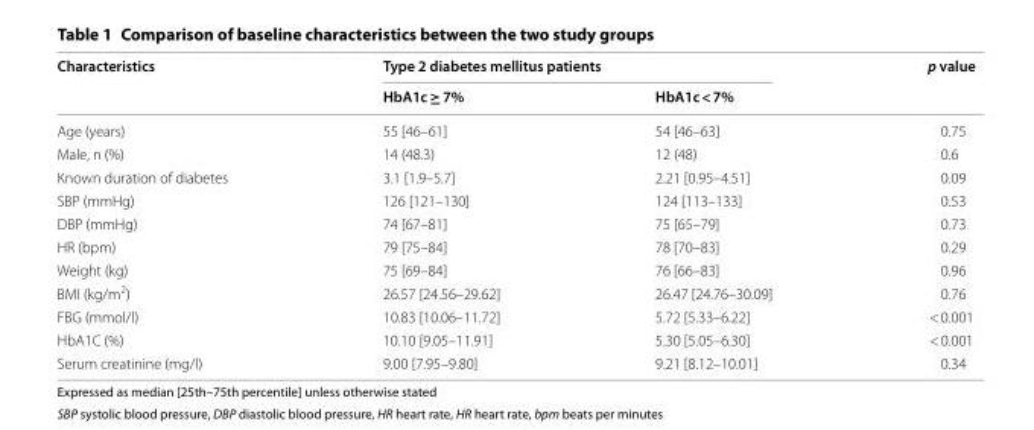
<table><thead><tr><td rowspan="2">Characteristics</td><td colspan="2">Type 2 diabetes mellitus patients</td><td rowspan="2">p value</td></tr><tr><td>HbA1c ≥ 7%</td><td>HbA1c &lt; 7%</td></tr></thead><tbody><tr><td>Age (years)</td><td>55 [46–61]</td><td>54 [46–63]</td><td>0.75</td></tr><tr><td>Male, n (%)</td><td>14 (48.3)</td><td>12 (48)</td><td>0.6</td></tr><tr><td>Known duration of diabetes</td><td>3.1 [1.9–5.7]</td><td>2.21 [0.95–4.51]</td><td>0.09</td></tr><tr><td>SBP (mmHg)</td><td>126 [121–130]</td><td>124 [113–133]</td><td>0.53</td></tr><tr><td>DBP (mmHg)</td><td>74 [67–81]</td><td>75 [65–79]</td><td>0.73</td></tr><tr><td>HR (bpm)</td><td>79 [75–84]</td><td>78 [70–83]</td><td>0.29</td></tr><tr><td>Weight (kg)</td><td>75 [69–84]</td><td>76 [66–83]</td><td>0.96</td></tr><tr><td>BMI (kg/m<sup>2</sup>)</td><td>26.57 [24.56–29.62]</td><td>26.47 [24.76–30.09]</td><td>0.76</td></tr><tr><td>FBG (mmol/l)</td><td>10.83 [10.06–11.72]</td><td>5.72 [5.33–6.22]</td><td>&lt; 0.001</td></tr><tr><td>HbA1C (%)</td><td>10.10 [9.05–11.91]</td><td>5.30 [5.05–6.30]</td><td>&lt; 0.001</td></tr><tr><td>Serum creatinine (mg/l)</td><td>9.00 [7.95–9.80]</td><td>9.21 [8.12–10.01]</td><td>0.34</td></tr></tbody></table>